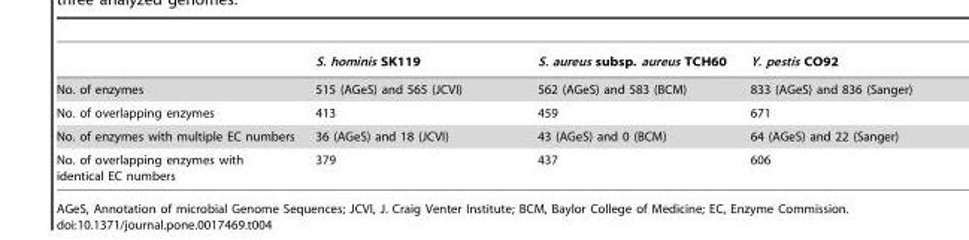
<table><thead><tr><td></td><td>S. hominis SK119</td><td>S. aureus subsp. aureus TCH60</td><td>Y. pestis CO92</td></tr></thead><tbody><tr><td>No. of enzymes</td><td>515 (AGeS) and 565 (JCVI)</td><td>562 (AGeS) and 583 (BCM)</td><td>833 (AGeS) and 836 (Sanger)</td></tr><tr><td>No. of overlapping enzymes</td><td>413</td><td>459</td><td>671</td></tr><tr><td>No. of enzymes with multiple EC numbers</td><td>36 (AGeS) and 18 (JCVI)</td><td>43 (AGeS) and 0 (BCM)</td><td>64 (AGeS) and 22 (Sanger)</td></tr><tr><td>No. of overlapping enzymes with identical EC numbers</td><td>379</td><td>437</td><td>606</td></tr></tbody></table>